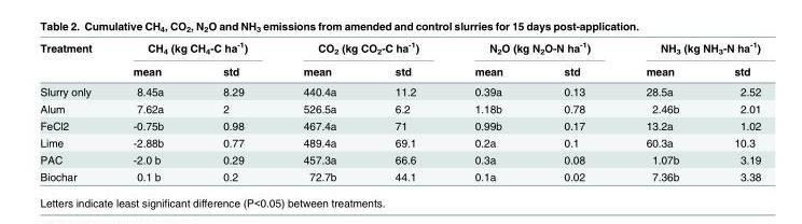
<table><thead><tr><td rowspan="2">Treatment</td><td colspan="2">CH<sub>4</sub> (kg CH<sub>4</sub>-C ha<sup>-1</sup>)</td><td colspan="2">CO<sub>2</sub> (kg CO<sub>2</sub>-C ha<sup>-1</sup>)</td><td colspan="2">N<sub>2</sub>O (kg N<sub>2</sub>O-N ha<sup>-1</sup>)</td><td colspan="2">NH<sub>3</sub> (kg NH<sub>3</sub>-N ha<sup>-1</sup>)</td></tr><tr><td>mean</td><td>std</td><td>mean</td><td>std</td><td>mean</td><td>std</td><td>mean</td><td>std</td></tr></thead><tbody><tr><td>Slurry only</td><td>8.45a</td><td>8.29</td><td>440.4a</td><td>11.2</td><td>0.39a</td><td>0.13</td><td>28.5a</td><td>2.52</td></tr><tr><td>Alum</td><td>7.62a</td><td>2</td><td>526.5a</td><td>6.2</td><td>1.18b</td><td>0.78</td><td>2.46b</td><td>2.01</td></tr><tr><td>FeCl2</td><td>-0.75b</td><td>0.98</td><td>467.4a</td><td>71</td><td>0.99b</td><td>0.17</td><td>13.2a</td><td>1.02</td></tr><tr><td>Lime</td><td>-2.88b</td><td>0.77</td><td>489.4a</td><td>69.1</td><td>0.2a</td><td>0.1</td><td>60.3a</td><td>10.3</td></tr><tr><td>PAC</td><td>-2.0 b</td><td>0.29</td><td>457.3a</td><td>66.6</td><td>0.3a</td><td>0.08</td><td>1.07b</td><td>3.19</td></tr><tr><td>Biochar</td><td>0.1 b</td><td>0.2</td><td>72.7b</td><td>44.1</td><td>0.1a</td><td>0.02</td><td>7.36b</td><td>3.38</td></tr></tbody></table>